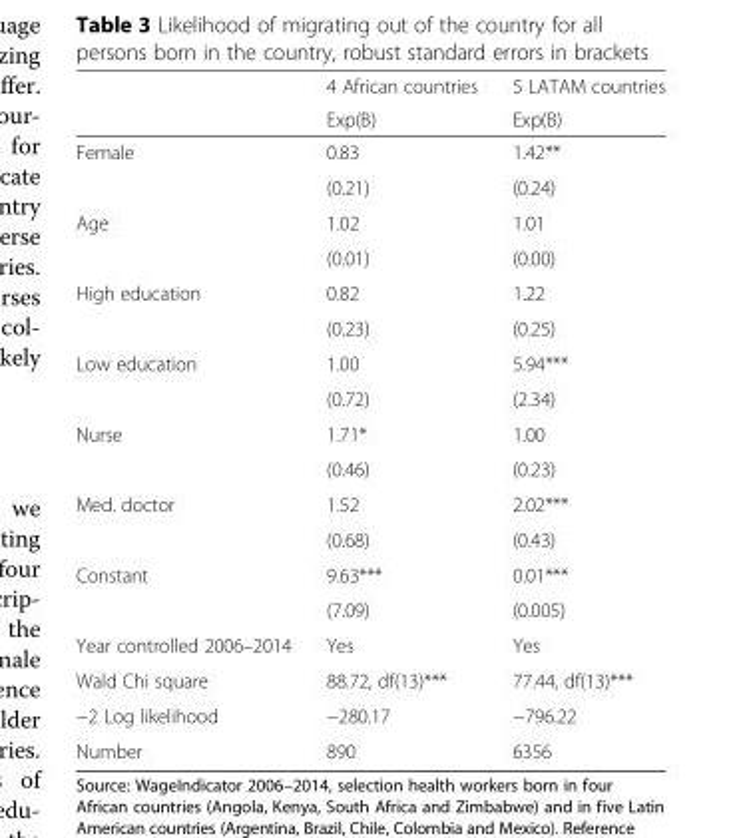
<table><thead><tr><td rowspan="2"></td><td rowspan="2">4 African countries Exp(B)</td><td rowspan="2">5 LATAM countries Exp(B)</td></tr><tr></tr></thead><tbody><tr><td rowspan="2">Female</td><td>0.83</td><td>1.42**</td></tr><tr><td>(0.21)</td><td>(0.24)</td></tr><tr><td rowspan="2">Age</td><td>1.02</td><td>1.01</td></tr><tr><td>(0.01)</td><td>(0.00)</td></tr><tr><td rowspan="2">High education</td><td>0.82</td><td>1.22</td></tr><tr><td>(0.23)</td><td>(0.25)</td></tr><tr><td rowspan="2">Low education</td><td>1.00</td><td>5.94***</td></tr><tr><td>(0.72)</td><td>(2.34)</td></tr><tr><td rowspan="2">Nurse</td><td>1.71*</td><td>1.00</td></tr><tr><td>(0.46)</td><td>(0.23)</td></tr><tr><td rowspan="2">Med. doctor</td><td>1.52</td><td>2.02***</td></tr><tr><td>(0.68)</td><td>(0.43)</td></tr><tr><td rowspan="2">Constant</td><td>9.63***</td><td>0.01***</td></tr><tr><td>(7.09)</td><td>(0.005)</td></tr><tr><td>Year controlled 2006–2014</td><td>Yes</td><td>Yes</td></tr><tr><td>Wald Chi square</td><td>88.72, df(13)***</td><td>77.44, df(13)***</td></tr><tr><td>−2 Log likelihood</td><td>−280.17</td><td>−796.22</td></tr><tr><td>Number</td><td>890</td><td>6356</td></tr></tbody></table>